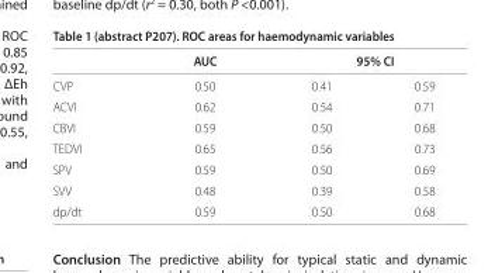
<table><thead><tr><td rowspan="2">CVP</td><td rowspan="2">AUC 0.50</td><td colspan="2">95% CI</td></tr><tr><td>0.41</td><td>0.59</td></tr></thead><tbody><tr><td>ACVI</td><td>0.62</td><td>0.54</td><td>0.71</td></tr><tr><td>CBVI</td><td>0.59</td><td>0.50</td><td>0.68</td></tr><tr><td>TEDVI</td><td>0.65</td><td>0.56</td><td>0.73</td></tr><tr><td>SPV</td><td>0.59</td><td>0.50</td><td>0.69</td></tr><tr><td>SVV</td><td>0.48</td><td>0.39</td><td>0.58</td></tr><tr><td>dp/dt</td><td>0.59</td><td>0.50</td><td>0.68</td></tr></tbody></table>